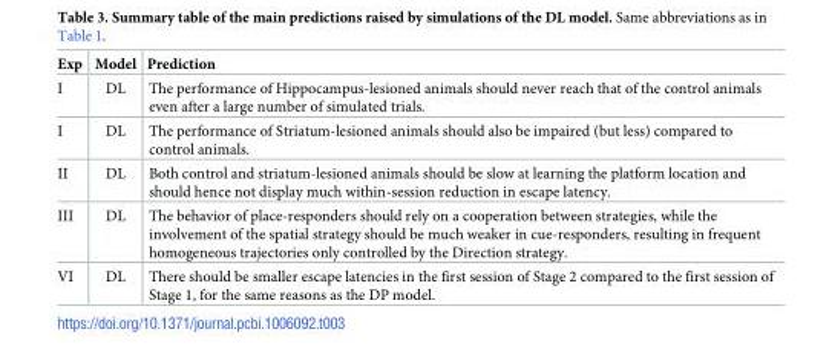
<table><thead><tr><td>Exp</td><td>Model</td><td>Prediction</td></tr></thead><tbody><tr><td>I</td><td>DL</td><td>The performance of Hippocampus-lesioned animals should never reach that of the control animals even after a large number of simulated trials.</td></tr><tr><td>I</td><td>DL</td><td>The performance of Striatum-lesioned animals should also be impaired (but less) compared to control animals.</td></tr><tr><td>II</td><td>DL</td><td>Both control and striatum-lesioned animals should be slow at learning the platform location and should hence not display much within-session reduction in escape latency.</td></tr><tr><td>III</td><td>DL</td><td>The behavior of place-responders should rely on a cooperation between strategies, while the involvement of the spatial strategy should be much weaker in cue-responders, resulting in frequent homogeneous trajectories only controlled by the Direction strategy.</td></tr><tr><td>VI</td><td>DL</td><td>There should be smaller escape latencies in the first session of Stage 2 compared to the first session of Stage 1, for the same reasons as the DP model.</td></tr></tbody></table>